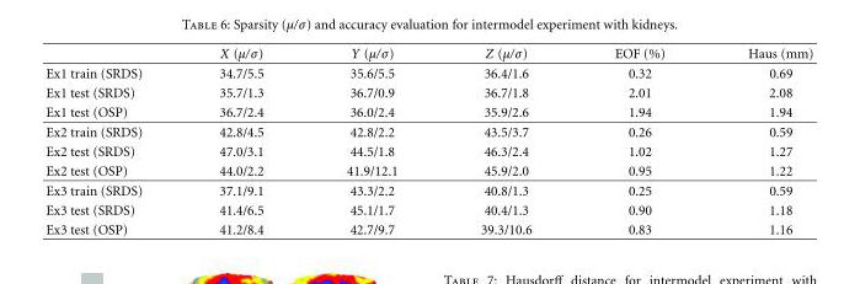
<table><thead><tr><td></td><td>X (μ/σ)</td><td>Y (μ/σ)</td><td>Z (μ/σ)</td><td>EOF (%)</td><td>Haus (mm)</td></tr></thead><tbody><tr><td>Ex1 train (SRDS)</td><td>34.7/5.5</td><td>35.6/5.5</td><td>36.4/1.6</td><td>0.32</td><td>0.69</td></tr><tr><td>Ex1 test (SRDS)</td><td>35.7/1.3</td><td>36.7/0.9</td><td>36.7/1.8</td><td>2.01</td><td>2.08</td></tr><tr><td>Ex1 test (OSP)</td><td>36.7/2.4</td><td>36.0/2.4</td><td>35.9/2.6</td><td>1.94</td><td>1.94</td></tr><tr><td>Ex2 train (SRDS)</td><td>42.8/4.5</td><td>42.8/2.2</td><td>43.5/3.7</td><td>0.26</td><td>0.59</td></tr><tr><td>Ex2 test (SRDS)</td><td>47.0/3.1</td><td>44.5/1.8</td><td>46.3/2.4</td><td>1.02</td><td>1.27</td></tr><tr><td>Ex2 test (OSP)</td><td>44.0/2.2</td><td>41.9/12.1</td><td>45.9/2.0</td><td>0.95</td><td>1.22</td></tr><tr><td>Ex3 train (SRDS)</td><td>37.1/9.1</td><td>43.3/2.2</td><td>40.8/1.3</td><td>0.25</td><td>0.59</td></tr><tr><td>Ex3 test (SRDS)</td><td>41.4/6.5</td><td>45.1/1.7</td><td>40.4/1.3</td><td>0.90</td><td>1.18</td></tr><tr><td>Ex3 test (OSP)</td><td>41.2/8.4</td><td>42.7/9.7</td><td>39.3/10.6</td><td>0.83</td><td>1.16</td></tr></tbody></table>